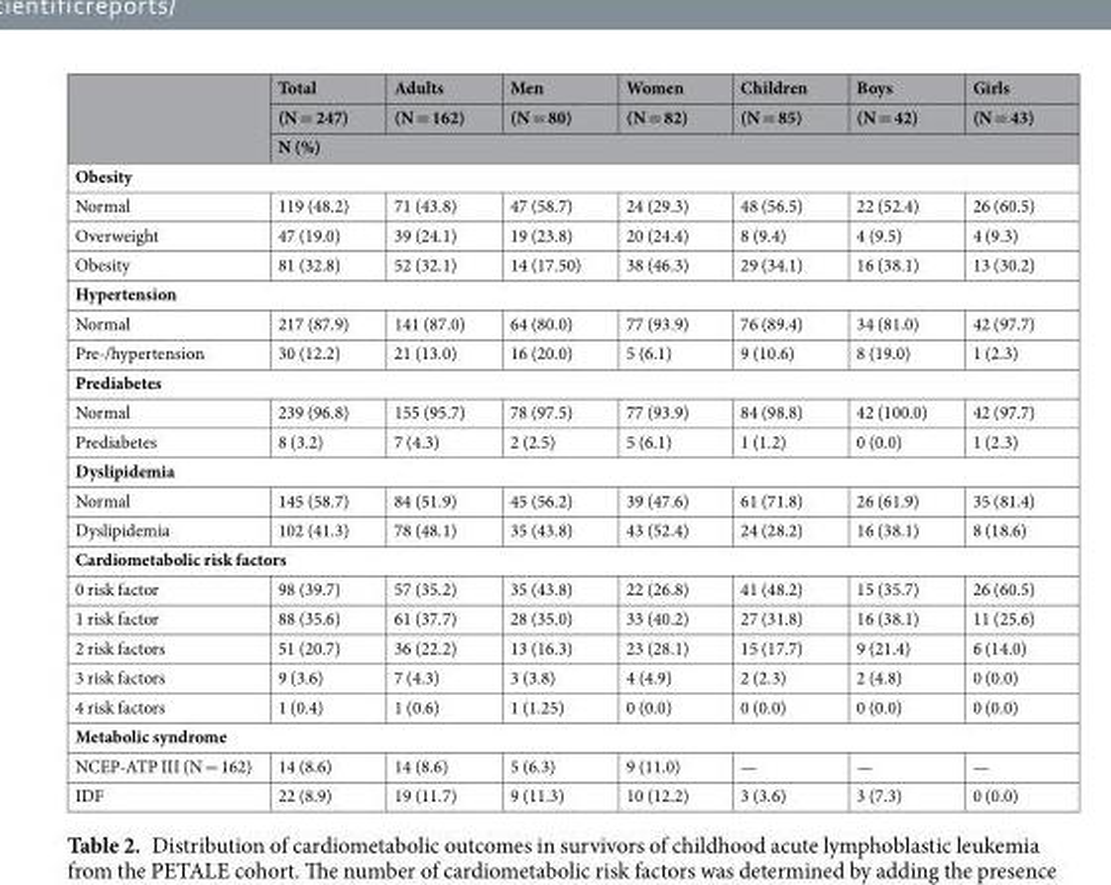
<table><thead><tr><td rowspan="3"></td><td rowspan="2">Total (N = 247)</td><td rowspan="2">Adults (N = 162)</td><td rowspan="2">Men (N = 80)</td><td rowspan="2">Women (N = 82)</td><td rowspan="2">Children (N = 85)</td><td rowspan="2">Boys (N = 42)</td><td rowspan="2">Girls (N = 43)</td></tr><tr></tr><tr><td colspan="7">N (%)</td></tr></thead><tbody><tr><td colspan="8">Obesity</td></tr><tr><td>Normal</td><td>119 (48.2)</td><td>71 (43.8)</td><td>47 (58.7)</td><td>24 (29.3)</td><td>48 (56.5)</td><td>22 (52.4)</td><td>26 (60.5)</td></tr><tr><td>Overweight</td><td>47 (19.0)</td><td>39 (24.1)</td><td>19 (23.8)</td><td>20 (24.4)</td><td>8 (9.4)</td><td>4 (9.5)</td><td>4 (9.3)</td></tr><tr><td>Obesity</td><td>81 (32.8)</td><td>52 (32.1)</td><td>14 (17.50)</td><td>38 (46.3)</td><td>29 (34.1)</td><td>16 (38.1)</td><td>13 (30.2)</td></tr><tr><td colspan="8">Hypertension</td></tr><tr><td>Normal</td><td>217 (87.9)</td><td>141 (87.0)</td><td>64 (80.0)</td><td>77 (93.9)</td><td>76 (89.4)</td><td>34 (81.0)</td><td>42 (97.7)</td></tr><tr><td>Pre-/hypertension</td><td>30 (12.2)</td><td>21 (13.0)</td><td>16 (20.0)</td><td>5 (6.1)</td><td>9 (10.6)</td><td>8 (19.0)</td><td>1 (2.3)</td></tr><tr><td colspan="8">Prediabetes</td></tr><tr><td>Normal</td><td>239 (96.8)</td><td>155 (95.7)</td><td>78 (97.5)</td><td>77 (93.9)</td><td>84 (98.8)</td><td>42 (100.0)</td><td>42 (97.7)</td></tr><tr><td>Prediabetes</td><td>8 (3.2)</td><td>7 (4.3)</td><td>2 (2.5)</td><td>5 (6.1)</td><td>1 (1.2)</td><td>0 (0.0)</td><td>1 (2.3)</td></tr><tr><td colspan="8">Dyslipidemia</td></tr><tr><td>Normal</td><td>145 (58.7)</td><td>84 (51.9)</td><td>45 (56.2)</td><td>39 (47.6)</td><td>61 (71.8)</td><td>26 (61.9)</td><td>35 (81.4)</td></tr><tr><td>Dyslipidemia</td><td>102 (41.3)</td><td>78 (48.1)</td><td>35 (43.8)</td><td>43 (52.4)</td><td>24 (28.2)</td><td>16 (38.1)</td><td>8 (18.6)</td></tr><tr><td colspan="8">Cardiometabolic risk factors</td></tr><tr><td>0 risk factor</td><td>98 (39.7)</td><td>57 (35.2)</td><td>35 (43.8)</td><td>22 (26.8)</td><td>41 (48.2)</td><td>15 (35.7)</td><td>26 (60.5)</td></tr><tr><td>1 risk factor</td><td>88 (35.6)</td><td>61 (37.7)</td><td>28 (35.0)</td><td>33 (40.2)</td><td>27 (31.8)</td><td>16 (38.1)</td><td>11 (25.6)</td></tr><tr><td>2 risk factors</td><td>51 (20.7)</td><td>36 (22.2)</td><td>13 (16.3)</td><td>23 (28.1)</td><td>15 (17.7)</td><td>9 (21.4)</td><td>6 (14.0)</td></tr><tr><td>3 risk factors</td><td>9 (3.6)</td><td>7 (4.3)</td><td>3 (3.8)</td><td>4 (4.9)</td><td>2 (2.3)</td><td>2 (4.8)</td><td>0 (0.0)</td></tr><tr><td>4 risk factors</td><td>1 (0.4)</td><td>1 (0.6)</td><td>1 (1.25)</td><td>0 (0.0)</td><td>0 (0.0)</td><td>0 (0.0)</td><td>0 (0.0)</td></tr><tr><td colspan="8">Metabolic syndrome</td></tr><tr><td>NCEP-ATP III (N = 162)</td><td>14 (8.6)</td><td>14 (8.6)</td><td>5 (6.3)</td><td>9 (11.0)</td><td>—</td><td>—</td><td>—</td></tr><tr><td>IDF</td><td>22 (8.9)</td><td>19 (11.7)</td><td>9 (11.3)</td><td>10 (12.2)</td><td>3 (3.6)</td><td>3 (7.3)</td><td>0 (0.0)</td></tr></tbody></table>